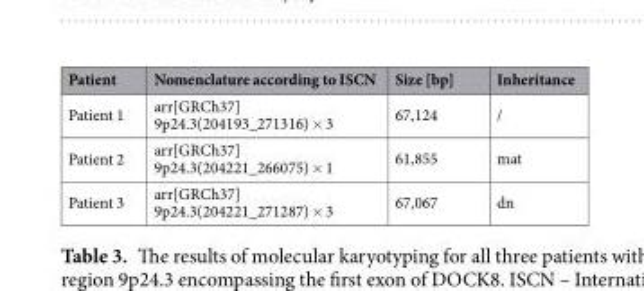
<table><thead><tr><td>Patient</td><td>Nomenclature according to ISCN</td><td>Size [bp]</td><td>Inheritance</td></tr></thead><tbody><tr><td>Patient 1</td><td>arr[GRCh37] 9p24.3(204193_271316) × 3</td><td>67,124</td><td>/</td></tr><tr><td>Patient 2</td><td>arr[GRCh37] 9p24.3(204221_266075) × 1</td><td>61,855</td><td>mat</td></tr><tr><td>Patient 3</td><td>arr[GRCh37] 9p24.3(204221_271287) × 3</td><td>67,067</td><td>dn</td></tr></tbody></table>